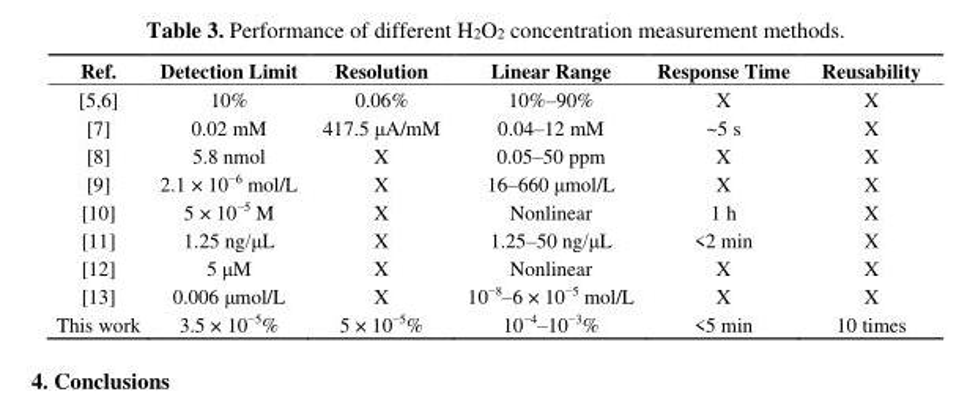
<table><thead><tr><td>Ref.</td><td>Detection Limit</td><td>Resolution</td><td>Linear Range</td><td>Response Time</td><td>Reusability</td></tr></thead><tbody><tr><td>[5,6]</td><td>10%</td><td>0.06%</td><td>10%–90%</td><td>X</td><td>X</td></tr><tr><td>[7]</td><td>0.02 mM</td><td>417.5 μA/mM</td><td>0.04–12 mM</td><td>~5 s</td><td>X</td></tr><tr><td>[8]</td><td>5.8 nmol</td><td>X</td><td>0.05–50 ppm</td><td>X</td><td>X</td></tr><tr><td>[9]</td><td>2.1 × 10<sup>−6</sup> mol/L</td><td>X</td><td>16–660 μmol/L</td><td>X</td><td>X</td></tr><tr><td>[10]</td><td>5 × 10<sup>−5</sup> M</td><td>X</td><td>Nonlinear</td><td>1 h</td><td>X</td></tr><tr><td>[11]</td><td>1.25 ng/μL</td><td>X</td><td>1.25–50 ng/μL</td><td>&lt;2 min</td><td>X</td></tr><tr><td>[12]</td><td>5 μM</td><td>X</td><td>Nonlinear</td><td>X</td><td>X</td></tr><tr><td>[13]</td><td>0.006 μmol/L</td><td>X</td><td>10<sup>−8</sup>–6 × 10<sup>−5</sup> mol/L</td><td>X</td><td>X</td></tr><tr><td>This work</td><td>3.5 × 10<sup>−5</sup>%</td><td>5 × 10<sup>−5</sup>%</td><td>10<sup>−4</sup>–10<sup>−3</sup>%</td><td>&lt;5 min</td><td>10 times</td></tr></tbody></table>